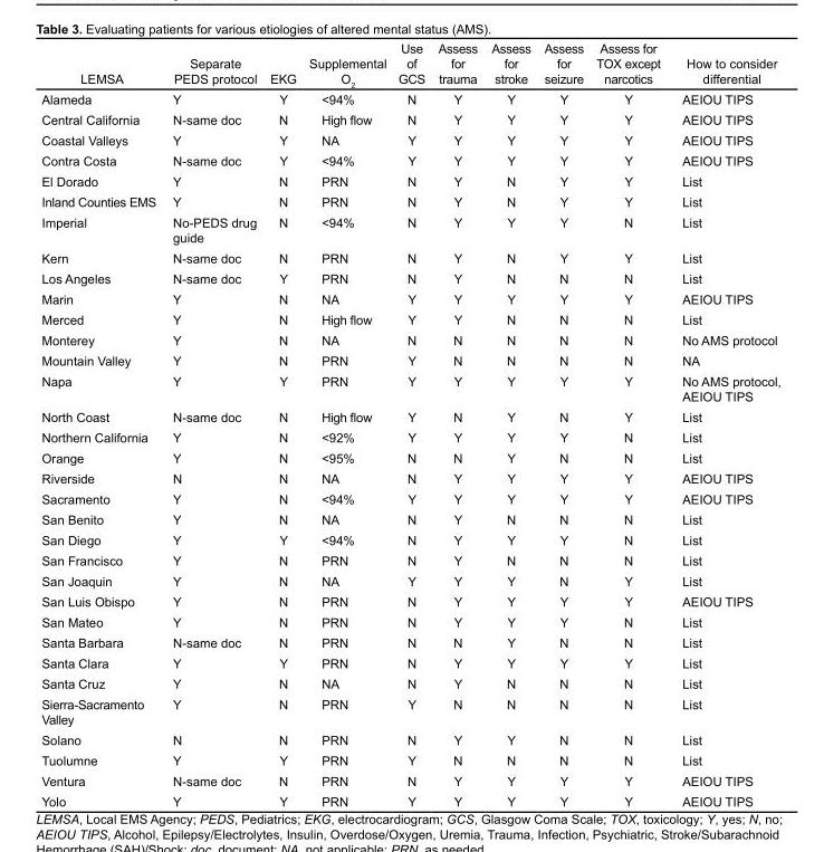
<table><thead><tr><td>LEMSA</td><td>Separate PEDS protocol</td><td>EKG</td><td>Supplemental O<sub>2</sub></td><td>Use of GCS</td><td>Assess for trauma</td><td>Assess for stroke</td><td>Assess for seizure</td><td>Assess for TOX except narcotics</td><td>How to consider differential</td></tr></thead><tbody><tr><td>Alameda</td><td>Y</td><td>Y</td><td>&lt;94%</td><td>N</td><td>Y</td><td>Y</td><td>Y</td><td>Y</td><td>AEIOU TIPS</td></tr><tr><td>Central California</td><td>N-same doc</td><td>N</td><td>High flow</td><td>N</td><td>Y</td><td>Y</td><td>Y</td><td>Y</td><td>AEIOU TIPS</td></tr><tr><td>Coastal Valleys</td><td>Y</td><td>Y</td><td>NA</td><td>Y</td><td>Y</td><td>Y</td><td>Y</td><td>Y</td><td>AEIOU TIPS</td></tr><tr><td>Contra Costa</td><td>N-same doc</td><td>Y</td><td>&lt;94%</td><td>Y</td><td>Y</td><td>Y</td><td>Y</td><td>Y</td><td>AEIOU TIPS</td></tr><tr><td>El Dorado</td><td>Y</td><td>N</td><td>PRN</td><td>N</td><td>Y</td><td>N</td><td>Y</td><td>Y</td><td>List</td></tr><tr><td>Inland Counties EMS</td><td>Y</td><td>N</td><td>PRN</td><td>N</td><td>Y</td><td>N</td><td>Y</td><td>Y</td><td>List</td></tr><tr><td>Imperial</td><td>No-PEDS drug guide</td><td>N</td><td>&lt;94%</td><td>N</td><td>Y</td><td>Y</td><td>Y</td><td>N</td><td>List</td></tr><tr><td>Kern</td><td>N-same doc</td><td>N</td><td>PRN</td><td>N</td><td>Y</td><td>N</td><td>Y</td><td>Y</td><td>List</td></tr><tr><td>Los Angeles</td><td>N-same doc</td><td>Y</td><td>PRN</td><td>N</td><td>Y</td><td>N</td><td>N</td><td>N</td><td>List</td></tr><tr><td>Marin</td><td>Y</td><td>N</td><td>NA</td><td>Y</td><td>Y</td><td>Y</td><td>Y</td><td>Y</td><td>AEIOU TIPS</td></tr><tr><td>Merced</td><td>Y</td><td>N</td><td>High flow</td><td>Y</td><td>Y</td><td>N</td><td>N</td><td>N</td><td>List</td></tr><tr><td>Monterey</td><td>Y</td><td>N</td><td>NA</td><td>N</td><td>N</td><td>N</td><td>N</td><td>N</td><td>No AMS protocol</td></tr><tr><td>Mountain Valley</td><td>Y</td><td>N</td><td>PRN</td><td>Y</td><td>N</td><td>N</td><td>N</td><td>N</td><td>NA</td></tr><tr><td>Napa</td><td>Y</td><td>Y</td><td>PRN</td><td>Y</td><td>Y</td><td>Y</td><td>Y</td><td>Y</td><td>No AMS protocol, AEIOU TIPS</td></tr><tr><td>North Coast</td><td>N-same doc</td><td>N</td><td>High flow</td><td>Y</td><td>N</td><td>Y</td><td>N</td><td>Y</td><td>List</td></tr><tr><td>Northern California</td><td>Y</td><td>N</td><td>&lt;92%</td><td>Y</td><td>Y</td><td>Y</td><td>Y</td><td>N</td><td>List</td></tr><tr><td>Orange</td><td>Y</td><td>N</td><td>&lt;95%</td><td>N</td><td>N</td><td>Y</td><td>N</td><td>N</td><td>List</td></tr><tr><td>Riverside</td><td>N</td><td>N</td><td>NA</td><td>N</td><td>Y</td><td>Y</td><td>Y</td><td>Y</td><td>AEIOU TIPS</td></tr><tr><td>Sacramento</td><td>Y</td><td>N</td><td>&lt;94%</td><td>Y</td><td>Y</td><td>Y</td><td>Y</td><td>Y</td><td>AEIOU TIPS</td></tr><tr><td>San Benito</td><td>Y</td><td>N</td><td>NA</td><td>N</td><td>Y</td><td>N</td><td>N</td><td>N</td><td>List</td></tr><tr><td>San Diego</td><td>Y</td><td>Y</td><td>&lt;94%</td><td>N</td><td>Y</td><td>Y</td><td>Y</td><td>N</td><td>List</td></tr><tr><td>San Francisco</td><td>Y</td><td>N</td><td>PRN</td><td>N</td><td>Y</td><td>N</td><td>N</td><td>N</td><td>List</td></tr><tr><td>San Joaquin</td><td>Y</td><td>N</td><td>NA</td><td>Y</td><td>Y</td><td>Y</td><td>N</td><td>Y</td><td>List</td></tr><tr><td>San Luis Obispo</td><td>Y</td><td>N</td><td>PRN</td><td>N</td><td>Y</td><td>Y</td><td>Y</td><td>Y</td><td>AEIOU TIPS</td></tr><tr><td>San Mateo</td><td>Y</td><td>N</td><td>PRN</td><td>N</td><td>Y</td><td>Y</td><td>Y</td><td>N</td><td>List</td></tr><tr><td>Santa Barbara</td><td>N-same doc</td><td>N</td><td>PRN</td><td>N</td><td>N</td><td>Y</td><td>N</td><td>N</td><td>List</td></tr><tr><td>Santa Clara</td><td>Y</td><td>Y</td><td>PRN</td><td>N</td><td>Y</td><td>Y</td><td>Y</td><td>Y</td><td>List</td></tr><tr><td>Santa Cruz</td><td>Y</td><td>N</td><td>NA</td><td>N</td><td>Y</td><td>N</td><td>N</td><td>N</td><td>List</td></tr><tr><td>Sierra-Sacramento Valley</td><td>Y</td><td>N</td><td>PRN</td><td>Y</td><td>N</td><td>N</td><td>N</td><td>N</td><td>List</td></tr><tr><td>Solano</td><td>N</td><td>N</td><td>PRN</td><td>N</td><td>Y</td><td>Y</td><td>N</td><td>N</td><td>List</td></tr><tr><td>Tuolumne</td><td>Y</td><td>Y</td><td>PRN</td><td>Y</td><td>N</td><td>N</td><td>N</td><td>N</td><td>List</td></tr><tr><td>Ventura</td><td>N-same doc</td><td>N</td><td>PRN</td><td>N</td><td>Y</td><td>Y</td><td>Y</td><td>Y</td><td>AEIOU TIPS</td></tr><tr><td>Yolo</td><td>Y</td><td>Y</td><td>PRN</td><td>Y</td><td>Y</td><td>Y</td><td>Y</td><td>Y</td><td>AEIOU TIPS</td></tr></tbody></table>